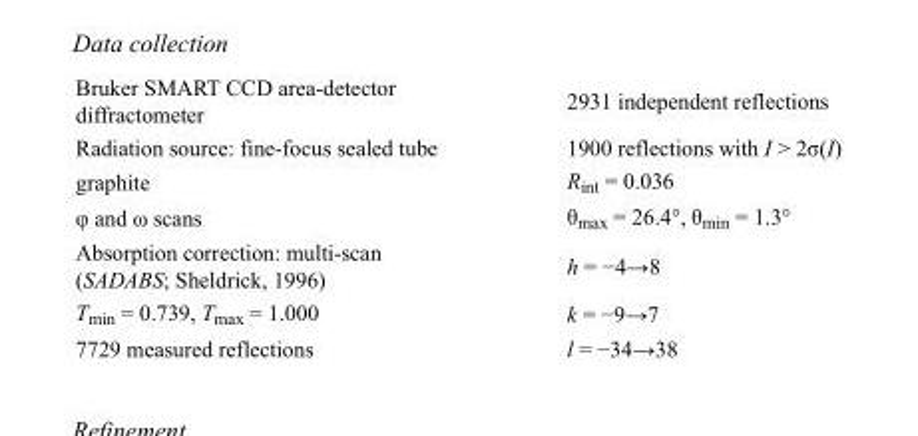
<table><tbody><tr><td>Bruker SMART CCD area-detector diffractometer</td><td>2931 independent reflections</td></tr><tr><td>Radiation source: fine-focus sealed tube</td><td>1900 reflections with I &gt; 2σ(I)</td></tr><tr><td>graphite</td><td>R<sub>int</sub> = 0.036</td></tr><tr><td>φ and ω scans</td><td>θ<sub>max</sub> = 26.4°, θ<sub>min</sub> = 1.3°</td></tr><tr><td>Absorption correction: multi-scan (SADABS; Sheldrick, 1996)</td><td>h = −4→8</td></tr><tr><td>T<sub>min</sub> = 0.739, T<sub>max</sub> = 1.000</td><td>k = −9→7</td></tr><tr><td>7729 measured reflections</td><td>l = −34→38</td></tr></tbody></table>